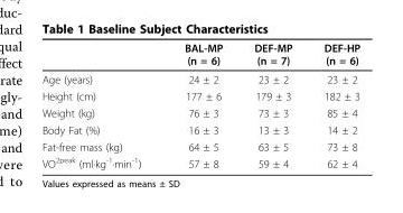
<table><thead><tr><td></td><td>BAL-MP (n = 6)</td><td>DEF-MP (n = 7)</td><td>DEF-HP (n = 6)</td></tr></thead><tbody><tr><td>Age (years)</td><td>24 ± 2</td><td>23 ± 2</td><td>23 ± 2</td></tr><tr><td>Height (cm)</td><td>177 ± 6</td><td>179 ± 3</td><td>182 ± 3</td></tr><tr><td>Weight (kg)</td><td>76 ± 3</td><td>73 ± 3</td><td>85 ± 4</td></tr><tr><td>Body Fat (%)</td><td>16 ± 3</td><td>13 ± 3</td><td>14 ± 2</td></tr><tr><td>Fat-free mass (kg)</td><td>64 ± 5</td><td>63 ± 5</td><td>73 ± 8</td></tr><tr><td>VO<sup>2peak</sup> (ml·kg<sup>-1</sup>·min<sup>-1</sup>)</td><td>57 ± 8</td><td>59 ± 4</td><td>62 ± 4</td></tr></tbody></table>